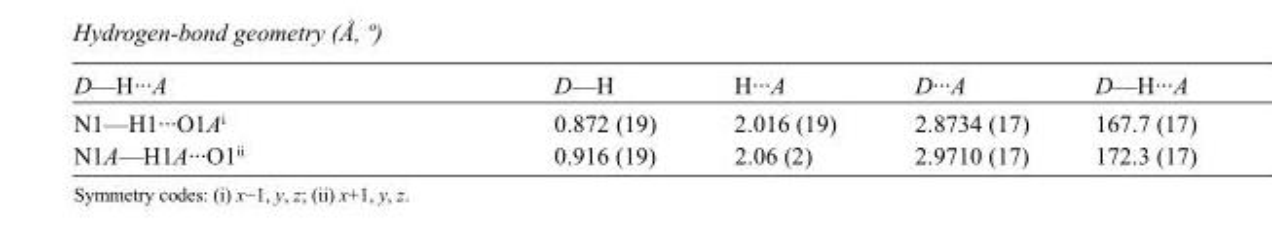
<table><tbody><tr><td>D—H···A</td><td>D—H</td><td>H···A</td><td>D···A</td><td>D—H···A</td></tr><tr><td>N1—H1···O1A<sup>i</sup></td><td>0.872 (19)</td><td>2.016 (19)</td><td>2.8734 (17)</td><td>167.7 (17)</td></tr><tr><td>N1A—H1A···O1<sup>ii</sup></td><td>0.916 (19)</td><td>2.06 (2)</td><td>2.9710 (17)</td><td>172.3 (17)</td></tr></tbody></table>